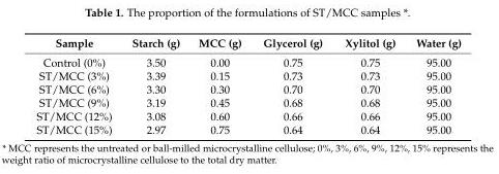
<table><thead><tr><td>Sample</td><td>Starch (g)</td><td>MCC (g)</td><td>Glycerol (g)</td><td>Xylitol (g)</td><td>Water (g)</td></tr></thead><tbody><tr><td>Control (0%)</td><td>3.50</td><td>0.00</td><td>0.75</td><td>0.75</td><td>95.00</td></tr><tr><td>ST/MCC (3%)</td><td>3.39</td><td>0.15</td><td>0.73</td><td>0.73</td><td>95.00</td></tr><tr><td>ST/MCC (6%)</td><td>3.30</td><td>0.30</td><td>0.70</td><td>0.70</td><td>95.00</td></tr><tr><td>ST/MCC (9%)</td><td>3.19</td><td>0.45</td><td>0.68</td><td>0.68</td><td>95.00</td></tr><tr><td>ST/MCC (12%)</td><td>3.08</td><td>0.60</td><td>0.66</td><td>0.66</td><td>95.00</td></tr><tr><td>ST/MCC (15%)</td><td>2.97</td><td>0.75</td><td>0.64</td><td>0.64</td><td>95.00</td></tr></tbody></table>